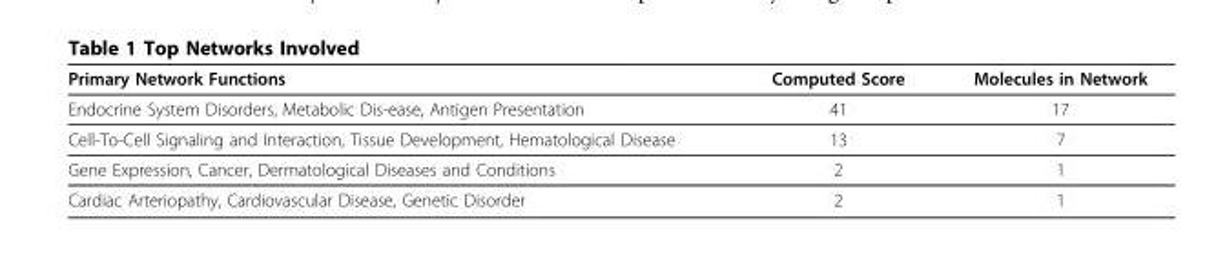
<table><thead><tr><td>Primary Network Functions</td><td>Computed Score</td><td>Molecules in Network</td></tr></thead><tbody><tr><td>Endocrine System Disorders, Metabolic Dis-ease, Antigen Presentation</td><td>41</td><td>17</td></tr><tr><td>Cell-To-Cell Signaling and Interaction, Tissue Development, Hematological Disease</td><td>13</td><td>7</td></tr><tr><td>Gene Expression, Cancer, Dermatological Diseases and Conditions</td><td>2</td><td>1</td></tr><tr><td>Cardiac Arteriopathy, Cardiovascular Disease, Genetic Disorder</td><td>2</td><td>1</td></tr></tbody></table>